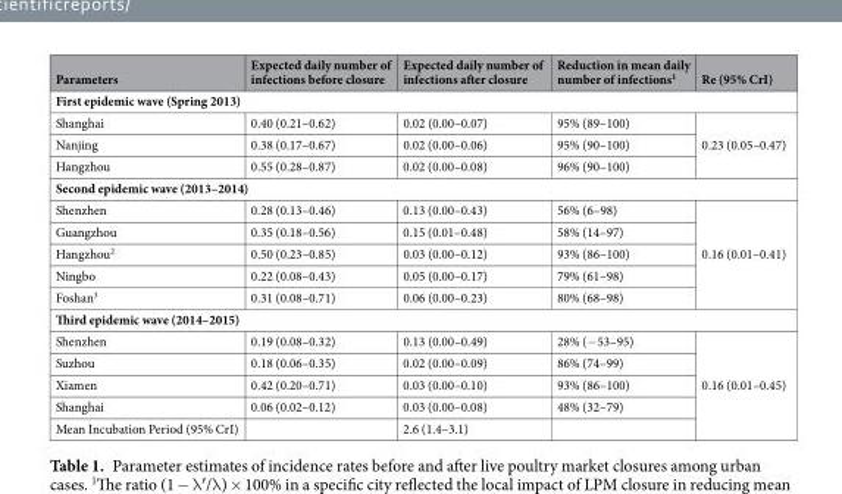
<table><thead><tr><td>Parameters</td><td>Expected daily number of infections before closure</td><td>Expected daily number of infections after closure</td><td>Reduction in mean daily number of infections<sup>1</sup></td><td>Re (95% CrI)</td></tr></thead><tbody><tr><td colspan="5">First epidemic wave (Spring 2013)</td></tr><tr><td>Shanghai</td><td>0.40 (0.21–0.62)</td><td>0.02 (0.00–0.07)</td><td>95% (89–100)</td><td rowspan="3">0.23 (0.05–0.47)</td></tr><tr><td>Nanjing</td><td>0.38 (0.17–0.67)</td><td>0.02 (0.00–0.06)</td><td>95% (90–100)</td></tr><tr><td>Hangzhou</td><td>0.55 (0.28–0.87)</td><td>0.02 (0.00–0.08)</td><td>96% (90–100)</td></tr><tr><td colspan="5">Second epidemic wave (2013–2014)</td></tr><tr><td>Shenzhen</td><td>0.28 (0.13–0.46)</td><td>0.13 (0.00–0.43)</td><td>56% (6–98)</td><td rowspan="5">0.16 (0.01–0.41)</td></tr><tr><td>Guangzhou</td><td>0.35 (0.18–0.56)</td><td>0.15 (0.01–0.48)</td><td>58% (14–97)</td></tr><tr><td>Hangzhou<sup>2</sup></td><td>0.50 (0.23–0.85)</td><td>0.03 (0.00–0.12)</td><td>93% (86–100)</td></tr><tr><td>Ningbo</td><td>0.22 (0.08–0.43)</td><td>0.05 (0.00–0.17)</td><td>79% (61–98)</td></tr><tr><td>Foshan<sup>3</sup></td><td>0.31 (0.08–0.71)</td><td>0.06 (0.00–0.23)</td><td>80% (68–98)</td></tr><tr><td colspan="5">Third epidemic wave (2014–2015)</td></tr><tr><td>Shenzhen</td><td>0.19 (0.08–0.32)</td><td>0.13 (0.00–0.49)</td><td>28% (−53–95)</td><td rowspan="5">0.16 (0.01–0.45)</td></tr><tr><td>Suzhou</td><td>0.18 (0.06–0.35)</td><td>0.02 (0.00–0.09)</td><td>86% (74–99)</td></tr><tr><td>Xiamen</td><td>0.42 (0.20–0.71)</td><td>0.03 (0.00–0.10)</td><td>93% (86–100)</td></tr><tr><td>Shanghai</td><td>0.06 (0.02–0.12)</td><td>0.03 (0.00–0.08)</td><td>48% (32–79)</td></tr><tr><td>Mean Incubation Period (95% CrI)</td><td></td><td>2.6 (1.4–3.1)</td><td></td></tr></tbody></table>